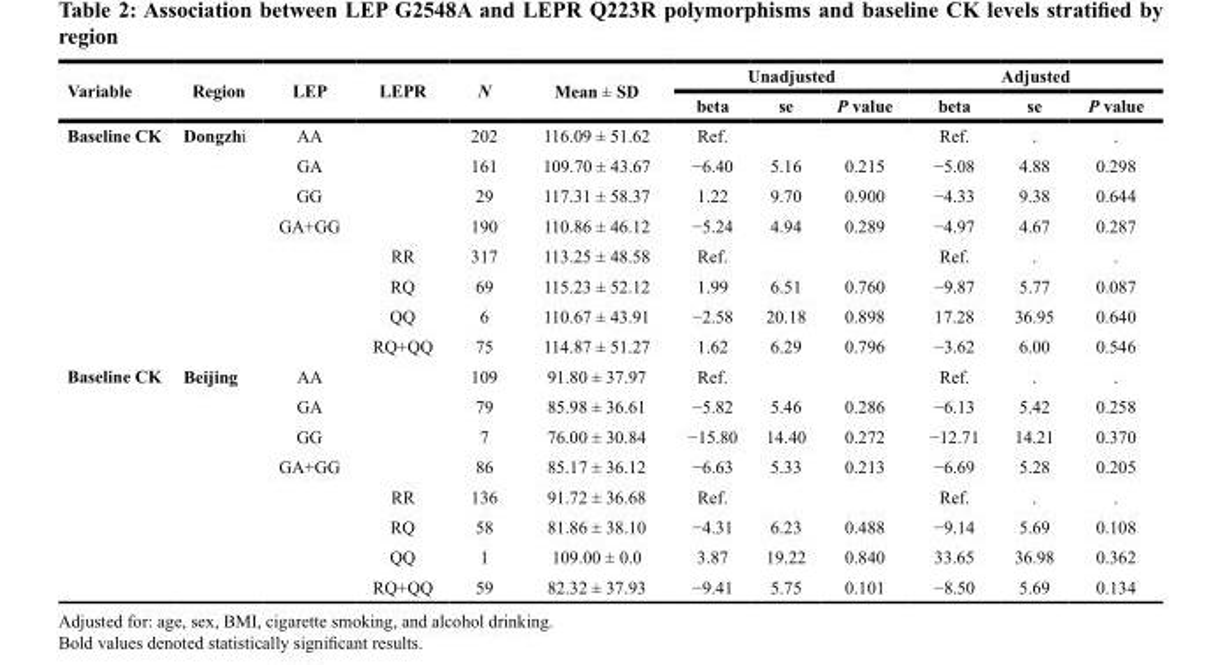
<table><thead><tr><td rowspan="2">Variable</td><td rowspan="2">Region</td><td rowspan="2">LEP</td><td rowspan="2">LEPR</td><td rowspan="2">N</td><td rowspan="2">Mean ± SD</td><td colspan="3">Unadjusted</td><td colspan="3">Adjusted</td></tr><tr><td>beta</td><td>se</td><td>P value</td><td>beta</td><td>se</td><td>P value</td></tr></thead><tbody><tr><td rowspan="8">Baseline CK</td><td>Dongzhi</td><td>AA</td><td></td><td>202</td><td>116.09 ± 51.62</td><td>Ref.</td><td></td><td></td><td>Ref.</td><td>.</td><td>.</td></tr><tr><td></td><td>GA</td><td></td><td>161</td><td>109.70 ± 43.67</td><td>−6.40</td><td>5.16</td><td>0.215</td><td>−5.08</td><td>4.88</td><td>0.298</td></tr><tr><td></td><td>GG</td><td></td><td>29</td><td>117.31 ± 58.37</td><td>1.22</td><td>9.70</td><td>0.900</td><td>−4.33</td><td>9.38</td><td>0.644</td></tr><tr><td></td><td>GA+GG</td><td></td><td>190</td><td>110.86 ± 46.12</td><td>−5.24</td><td>4.94</td><td>0.289</td><td>−4.97</td><td>4.67</td><td>0.287</td></tr><tr><td></td><td></td><td>RR</td><td>317</td><td>113.25 ± 48.58</td><td>Ref.</td><td></td><td></td><td>Ref.</td><td>.</td><td>.</td></tr><tr><td></td><td></td><td>RQ</td><td>69</td><td>115.23 ± 52.12</td><td>1.99</td><td>6.51</td><td>0.760</td><td>−9.87</td><td>5.77</td><td>0.087</td></tr><tr><td></td><td></td><td>QQ</td><td>6</td><td>110.67 ± 43.91</td><td>−2.58</td><td>20.18</td><td>0.898</td><td>17.28</td><td>36.95</td><td>0.640</td></tr><tr><td></td><td></td><td>RQ+QQ</td><td>75</td><td>114.87 ± 51.27</td><td>1.62</td><td>6.29</td><td>0.796</td><td>−3.62</td><td>6.00</td><td>0.546</td></tr><tr><td rowspan="8">Baseline CK</td><td>Beijing</td><td>AA</td><td></td><td>109</td><td>91.80 ± 37.97</td><td>Ref.</td><td></td><td></td><td>Ref.</td><td>.</td><td>.</td></tr><tr><td></td><td>GA</td><td></td><td>79</td><td>85.98 ± 36.61</td><td>−5.82</td><td>5.46</td><td>0.286</td><td>−6.13</td><td>5.42</td><td>0.258</td></tr><tr><td></td><td>GG</td><td></td><td>7</td><td>76.00 ± 30.84</td><td>−15.80</td><td>14.40</td><td>0.272</td><td>−12.71</td><td>14.21</td><td>0.370</td></tr><tr><td></td><td>GA+GG</td><td></td><td>86</td><td>85.17 ± 36.12</td><td>−6.63</td><td>5.33</td><td>0.213</td><td>−6.69</td><td>5.28</td><td>0.205</td></tr><tr><td></td><td></td><td>RR</td><td>136</td><td>91.72 ± 36.68</td><td>Ref.</td><td></td><td></td><td>Ref.</td><td>.</td><td>.</td></tr><tr><td></td><td></td><td>RQ</td><td>58</td><td>81.86 ± 38.10</td><td>−4.31</td><td>6.23</td><td>0.488</td><td>−9.14</td><td>5.69</td><td>0.108</td></tr><tr><td></td><td></td><td>QQ</td><td>1</td><td>109.00 ± 0.0</td><td>3.87</td><td>19.22</td><td>0.840</td><td>33.65</td><td>36.98</td><td>0.362</td></tr><tr><td></td><td></td><td>RQ+QQ</td><td>59</td><td>82.32 ± 37.93</td><td>−9.41</td><td>5.75</td><td>0.101</td><td>−8.50</td><td>5.69</td><td>0.134</td></tr></tbody></table>